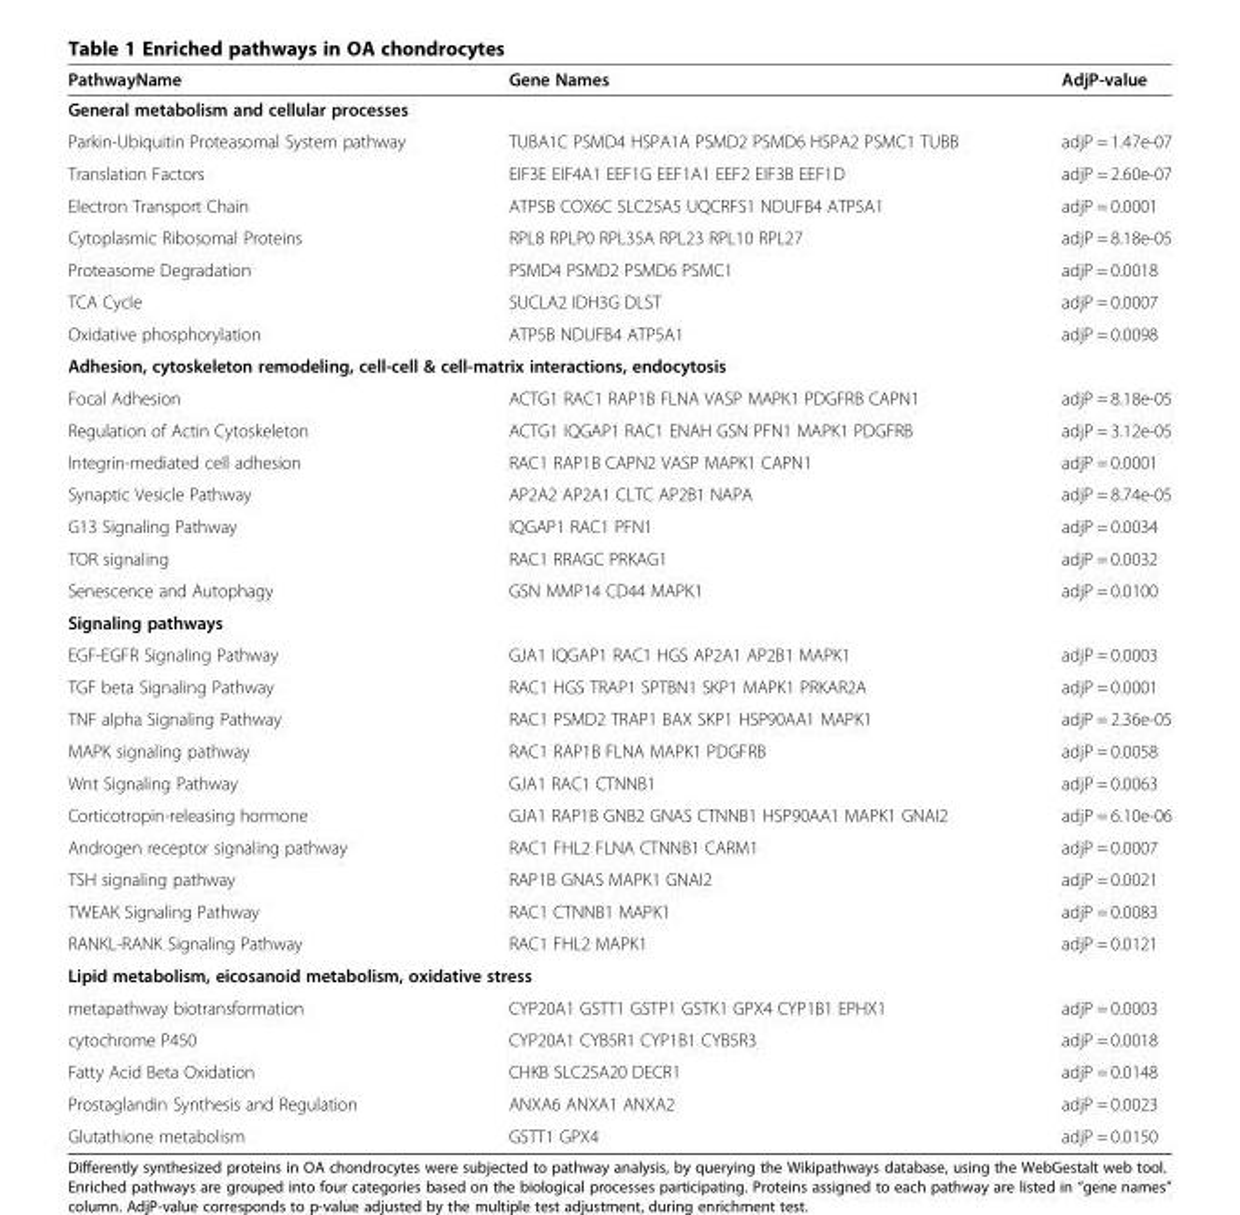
<table><thead><tr><td>PathwayName</td><td>Gene Names</td><td>AdjP-value</td></tr></thead><tbody><tr><td colspan="3">General metabolism and cellular processes</td></tr><tr><td>Parkin-Ubiquitin Proteasomal System pathway</td><td>TUBA1C PSMD4 HSPA1A PSMD2 PSMD6 HSPA2 PSMC1 TUBB</td><td>adjP = 1.47e-07</td></tr><tr><td>Translation Factors</td><td>EIF3E EIF4A1 EEF1G EEF1A1 EEF2 EIF3B EEF1D</td><td>adjP = 2.60e-07</td></tr><tr><td>Electron Transport Chain</td><td>ATP5B COX6C SLC25A5 UQCRFS1 NDUFB4 ATP5A1</td><td>adjP = 0.0001</td></tr><tr><td>Cytoplasmic Ribosomal Proteins</td><td>RPL8 RPLP0 RPL35A RPL23 RPL10 RPL27</td><td>adjP = 8.18e-05</td></tr><tr><td>Proteasome Degradation</td><td>PSMD4 PSMD2 PSMD6 PSMC1</td><td>adjP = 0.0018</td></tr><tr><td>TCA Cycle</td><td>SUCLA2 IDH3G DLST</td><td>adjP = 0.0007</td></tr><tr><td>Oxidative phosphorylation</td><td>ATP5B NDUFB4 ATP5A1</td><td>adjP = 0.0098</td></tr><tr><td colspan="3">Adhesion, cytoskeleton remodeling, cell-cell &amp; cell-matrix interactions, endocytosis</td></tr><tr><td>Focal Adhesion</td><td>ACTG1 RAC1 RAP1B FLNA VASP MAPK1 PDGFRB CAPN1</td><td>adjP = 8.18e-05</td></tr><tr><td>Regulation of Actin Cytoskeleton</td><td>ACTG1 IQGAP1 RAC1 ENAH GSN PFN1 MAPK1 PDGFRB</td><td>adjP = 3.12e-05</td></tr><tr><td>Integrin-mediated cell adhesion</td><td>RAC1 RAP1B CAPN2 VASP MAPK1 CAPN1</td><td>adjP = 0.0001</td></tr><tr><td>Synaptic Vesicle Pathway</td><td>AP2A2 AP2A1 CLTC AP2B1 NAPA</td><td>adjP = 8.74e-05</td></tr><tr><td>G13 Signaling Pathway</td><td>IQGAP1 RAC1 PFN1</td><td>adjP = 0.0034</td></tr><tr><td>TOR signaling</td><td>RAC1 RRAGC PRKAG1</td><td>adjP = 0.0032</td></tr><tr><td>Senescence and Autophagy</td><td>GSN MMP14 CD44 MAPK1</td><td>adjP = 0.0100</td></tr><tr><td colspan="3">Signaling pathways</td></tr><tr><td>EGF-EGFR Signaling Pathway</td><td>GJA1 IQGAP1 RAC1 HGS AP2A1 AP2B1 MAPK1</td><td>adjP = 0.0003</td></tr><tr><td>TGF beta Signaling Pathway</td><td>RAC1 HGS TRAP1 SPTBN1 SKP1 MAPK1 PRKAR2A</td><td>adjP = 0.0001</td></tr><tr><td>TNF alpha Signaling Pathway</td><td>RAC1 PSMD2 TRAP1 BAX SKP1 HSP90AA1 MAPK1</td><td>adjP = 2.36e-05</td></tr><tr><td>MAPK signaling pathway</td><td>RAC1 RAP1B FLNA MAPK1 PDGFRB</td><td>adjP = 0.0058</td></tr><tr><td>Wnt Signaling Pathway</td><td>GJA1 RAC1 CTNNB1</td><td>adjP = 0.0063</td></tr><tr><td>Corticotropin-releasing hormone</td><td>GJA1 RAP1B GNB2 GNAS CTNNB1 HSP90AA1 MAPK1 GNAI2</td><td>adjP = 6.10e-06</td></tr><tr><td>Androgen receptor signaling pathway</td><td>RAC1 FHL2 FLNA CTNNB1 CARM1</td><td>adjP = 0.0007</td></tr><tr><td>TSH signaling pathway</td><td>RAP1B GNAS MAPK1 GNAI2</td><td>adjP = 0.0021</td></tr><tr><td>TWEAK Signaling Pathway</td><td>RAC1 CTNNB1 MAPK1</td><td>adjP = 0.0083</td></tr><tr><td>RANKL-RANK Signaling Pathway</td><td>RAC1 FHL2 MAPK1</td><td>adjP = 0.0121</td></tr><tr><td colspan="3">Lipid metabolism, eicosanoid metabolism, oxidative stress</td></tr><tr><td>metapathway biotransformation</td><td>CYP20A1 GSTT1 GSTP1 GSTK1 GPX4 CYP1B1 EPHX1</td><td>adjP = 0.0003</td></tr><tr><td>cytochrome P450</td><td>CYP20A1 CYB5R1 CYP1B1 CYB5R3</td><td>adjP = 0.0018</td></tr><tr><td>Fatty Acid Beta Oxidation</td><td>CHKB SLC25A20 DECR1</td><td>adjP = 0.0148</td></tr><tr><td>Prostaglandin Synthesis and Regulation</td><td>ANXA6 ANXA1 ANXA2</td><td>adjP = 0.0023</td></tr><tr><td>Glutathione metabolism</td><td>GSTT1 GPX4</td><td>adjP = 0.0150</td></tr></tbody></table>